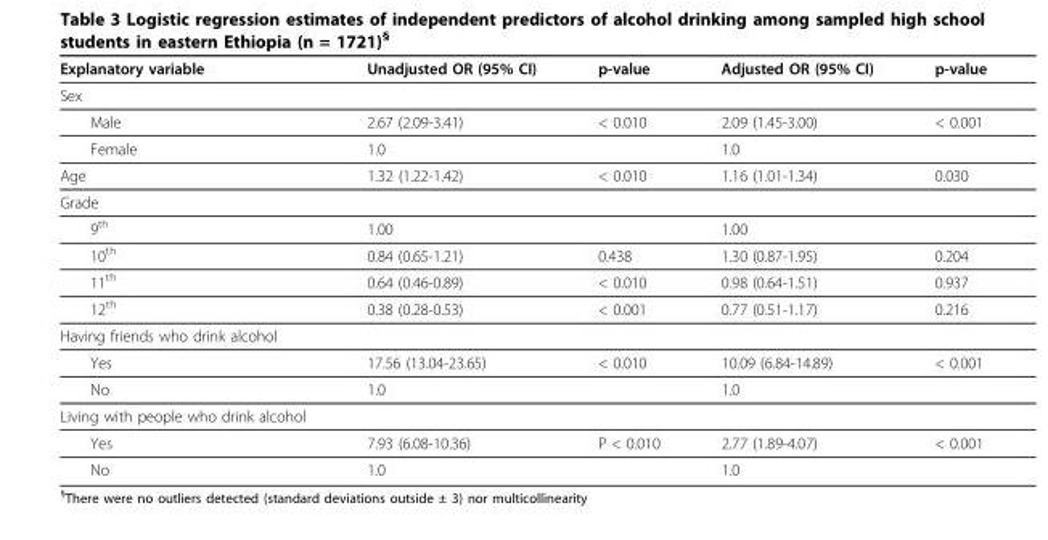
<table><thead><tr><td>Explanatory variable</td><td>Unadjusted OR (95% CI)</td><td>p-value</td><td>Adjusted OR (95% CI)</td><td>p-value</td></tr></thead><tbody><tr><td colspan="5">Sex</td></tr><tr><td>Male</td><td>2.67 (2.09-3.41)</td><td>&lt; 0.010</td><td>2.09 (1.45-3.00)</td><td>&lt; 0.001</td></tr><tr><td>Female</td><td>1.0</td><td></td><td>1.0</td><td></td></tr><tr><td>Age</td><td>1.32 (1.22-1.42)</td><td>&lt; 0.010</td><td>1.16 (1.01-1.34)</td><td>0.030</td></tr><tr><td colspan="5">Grade</td></tr><tr><td>9<sup>th</sup></td><td>1.00</td><td></td><td>1.00</td><td></td></tr><tr><td>10<sup>th</sup></td><td>0.84 (0.65-1.21)</td><td>0.438</td><td>1.30 (0.87-1.95)</td><td>0.204</td></tr><tr><td>11<sup>th</sup></td><td>0.64 (0.46-0.89)</td><td>&lt; 0.010</td><td>0.98 (0.64-1.51)</td><td>0.937</td></tr><tr><td>12<sup>th</sup></td><td>0.38 (0.28-0.53)</td><td>&lt; 0.001</td><td>0.77 (0.51-1.17)</td><td>0.216</td></tr><tr><td colspan="5">Having friends who drink alcohol</td></tr><tr><td>Yes</td><td>17.56 (13.04-23.65)</td><td>&lt; 0.010</td><td>10.09 (6.84-14.89)</td><td>&lt; 0.001</td></tr><tr><td>No</td><td>1.0</td><td></td><td>1.0</td><td></td></tr><tr><td colspan="5">Living with people who drink alcohol</td></tr><tr><td>Yes</td><td>7.93 (6.08-10.36)</td><td>P &lt; 0.010</td><td>2.77 (1.89-4.07)</td><td>&lt; 0.001</td></tr><tr><td>No</td><td>1.0</td><td></td><td>1.0</td><td></td></tr></tbody></table>